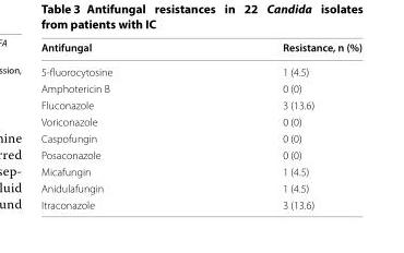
<table><thead><tr><td>Antifungal</td><td>Resistance, n (%)</td></tr></thead><tbody><tr><td>5-fluorocytosine</td><td>1 (4.5)</td></tr><tr><td>Amphotericin B</td><td>0 (0)</td></tr><tr><td>Fluconazole</td><td>3 (13.6)</td></tr><tr><td>Voriconazole</td><td>0 (0)</td></tr><tr><td>Caspofungin</td><td>0 (0)</td></tr><tr><td>Posaconazole</td><td>0 (0)</td></tr><tr><td>Micafungin</td><td>1 (4.5)</td></tr><tr><td>Anidulafungin</td><td>1 (4.5)</td></tr><tr><td>Itraconazole</td><td>3 (13.6)</td></tr></tbody></table>